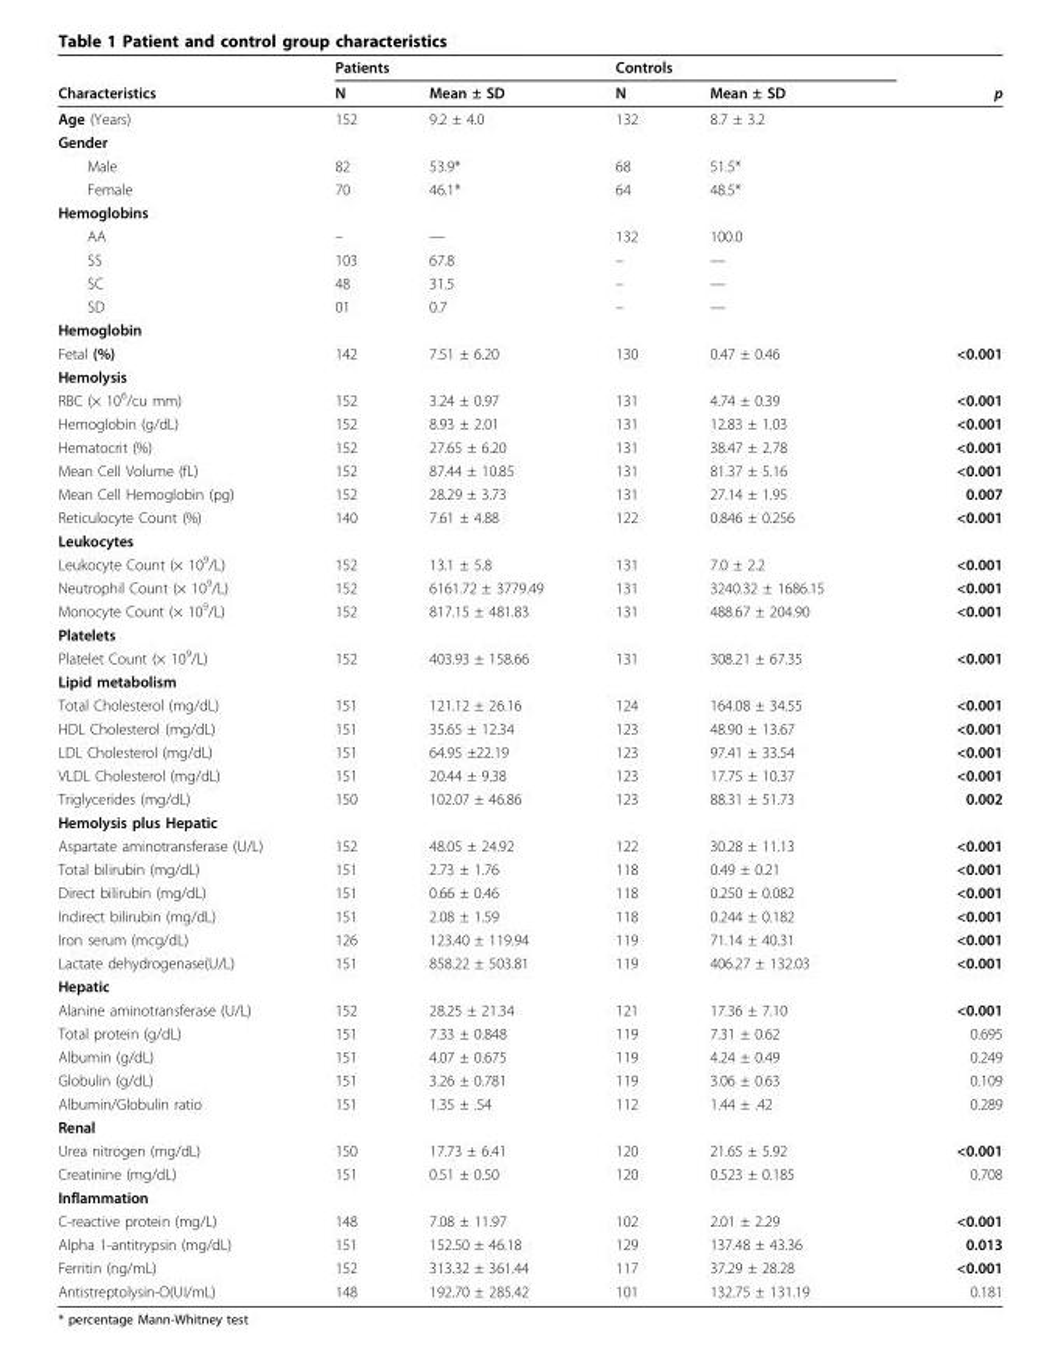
<table><thead><tr><td rowspan="2">Characteristics</td><td colspan="2">Patients</td><td colspan="2">Controls</td><td rowspan="2">p</td></tr><tr><td>N</td><td>Mean ± SD</td><td>N</td><td>Mean ± SD</td></tr></thead><tbody><tr><td>Age (Years)</td><td>152</td><td>9.2 ± 4.0</td><td>132</td><td>8.7 ± 3.2</td><td></td></tr><tr><td colspan="6">Gender</td></tr><tr><td>Male</td><td>82</td><td>53.9*</td><td>68</td><td>51.5*</td><td></td></tr><tr><td>Female</td><td>70</td><td>46.1*</td><td>64</td><td>48.5*</td><td></td></tr><tr><td colspan="6">Hemoglobins</td></tr><tr><td>AA</td><td>–</td><td>—</td><td>132</td><td>100.0</td><td></td></tr><tr><td>SS</td><td>103</td><td>67.8</td><td>–</td><td>—</td><td></td></tr><tr><td>SC</td><td>48</td><td>31.5</td><td>–</td><td>—</td><td></td></tr><tr><td>SD</td><td>01</td><td>0.7</td><td>–</td><td>—</td><td></td></tr><tr><td colspan="6">Hemoglobin</td></tr><tr><td>Fetal (%)</td><td>142</td><td>7.51 ± 6.20</td><td>130</td><td>0.47 ± 0.46</td><td>&lt;0.001</td></tr><tr><td colspan="6">Hemolysis</td></tr><tr><td>RBC (× 10<sup>6</sup>/cu mm)</td><td>152</td><td>3.24 ± 0.97</td><td>131</td><td>4.74 ± 0.39</td><td>&lt;0.001</td></tr><tr><td>Hemoglobin (g/dL)</td><td>152</td><td>8.93 ± 2.01</td><td>131</td><td>12.83 ± 1.03</td><td>&lt;0.001</td></tr><tr><td>Hematocrit (%)</td><td>152</td><td>27.65 ± 6.20</td><td>131</td><td>38.47 ± 2.78</td><td>&lt;0.001</td></tr><tr><td>Mean Cell Volume (fL)</td><td>152</td><td>87.44 ± 10.85</td><td>131</td><td>81.37 ± 5.16</td><td>&lt;0.001</td></tr><tr><td>Mean Cell Hemoglobin (pg)</td><td>152</td><td>28.29 ± 3.73</td><td>131</td><td>27.14 ± 1.95</td><td>0.007</td></tr><tr><td>Reticulocyte Count (%)</td><td>140</td><td>7.61 ± 4.88</td><td>122</td><td>0.846 ± 0.256</td><td>&lt;0.001</td></tr><tr><td colspan="6">Leukocytes</td></tr><tr><td>Leukocyte Count (× 10<sup>9</sup>/L)</td><td>152</td><td>13.1 ± 5.8</td><td>131</td><td>7.0 ± 2.2</td><td>&lt;0.001</td></tr><tr><td>Neutrophil Count (× 10<sup>9</sup>/L)</td><td>152</td><td>6161.72 ± 3779.49</td><td>131</td><td>3240.32 ± 1686.15</td><td>&lt;0.001</td></tr><tr><td>Monocyte Count (× 10<sup>9</sup>/L)</td><td>152</td><td>817.15 ± 481.83</td><td>131</td><td>488.67 ± 204.90</td><td>&lt;0.001</td></tr><tr><td colspan="6">Platelets</td></tr><tr><td>Platelet Count (× 10<sup>9</sup>/L)</td><td>152</td><td>403.93 ± 158.66</td><td>131</td><td>308.21 ± 67.35</td><td>&lt;0.001</td></tr><tr><td colspan="6">Lipid metabolism</td></tr><tr><td>Total Cholesterol (mg/dL)</td><td>151</td><td>121.12 ± 26.16</td><td>124</td><td>164.08 ± 34.55</td><td>&lt;0.001</td></tr><tr><td>HDL Cholesterol (mg/dL)</td><td>151</td><td>35.65 ± 12.34</td><td>123</td><td>48.90 ± 13.67</td><td>&lt;0.001</td></tr><tr><td>LDL Cholesterol (mg/dL)</td><td>151</td><td>64.95 ±22.19</td><td>123</td><td>97.41 ± 33.54</td><td>&lt;0.001</td></tr><tr><td>VLDL Cholesterol (mg/dL)</td><td>151</td><td>20.44 ± 9.38</td><td>123</td><td>17.75 ± 10.37</td><td>&lt;0.001</td></tr><tr><td>Triglycerides (mg/dL)</td><td>150</td><td>102.07 ± 46.86</td><td>123</td><td>88.31 ± 51.73</td><td>0.002</td></tr><tr><td colspan="6">Hemolysis plus Hepatic</td></tr><tr><td>Aspartate aminotransferase (U/L)</td><td>152</td><td>48.05 ± 24.92</td><td>122</td><td>30.28 ± 11.13</td><td>&lt;0.001</td></tr><tr><td>Total bilirubin (mg/dL)</td><td>151</td><td>2.73 ± 1.76</td><td>118</td><td>0.49 ± 0.21</td><td>&lt;0.001</td></tr><tr><td>Direct bilirubin (mg/dL)</td><td>151</td><td>0.66 ± 0.46</td><td>118</td><td>0.250 ± 0.082</td><td>&lt;0.001</td></tr><tr><td>Indirect bilirubin (mg/dL)</td><td>151</td><td>2.08 ± 1.59</td><td>118</td><td>0.244 ± 0.182</td><td>&lt;0.001</td></tr><tr><td>Iron serum (mcg/dL)</td><td>126</td><td>123.40 ± 119.94</td><td>119</td><td>71.14 ± 40.31</td><td>&lt;0.001</td></tr><tr><td>Lactate dehydrogenase(U/L)</td><td>151</td><td>858.22 ± 503.81</td><td>119</td><td>406.27 ± 132.03</td><td>&lt;0.001</td></tr><tr><td colspan="6">Hepatic</td></tr><tr><td>Alanine aminotransferase (U/L)</td><td>152</td><td>28.25 ± 21.34</td><td>121</td><td>17.36 ± 7.10</td><td>&lt;0.001</td></tr><tr><td>Total protein (g/dL)</td><td>151</td><td>7.33 ± 0.848</td><td>119</td><td>7.31 ± 0.62</td><td>0.695</td></tr><tr><td>Albumin (g/dL)</td><td>151</td><td>4.07 ± 0.675</td><td>119</td><td>4.24 ± 0.49</td><td>0.249</td></tr><tr><td>Globulin (g/dL)</td><td>151</td><td>3.26 ± 0.781</td><td>119</td><td>3.06 ± 0.63</td><td>0.109</td></tr><tr><td>Albumin/Globulin ratio</td><td>151</td><td>1.35 ± .54</td><td>112</td><td>1.44 ± .42</td><td>0.289</td></tr><tr><td colspan="6">Renal</td></tr><tr><td>Urea nitrogen (mg/dL)</td><td>150</td><td>17.73 ± 6.41</td><td>120</td><td>21.65 ± 5.92</td><td>&lt;0.001</td></tr><tr><td>Creatinine (mg/dL)</td><td>151</td><td>0.51 ± 0.50</td><td>120</td><td>0.523 ± 0.185</td><td>0.708</td></tr><tr><td colspan="6">Inflammation</td></tr><tr><td>C-reactive protein (mg/L)</td><td>148</td><td>7.08 ± 11.97</td><td>102</td><td>2.01 ± 2.29</td><td>&lt;0.001</td></tr><tr><td>Alpha 1-antitrypsin (mg/dL)</td><td>151</td><td>152.50 ± 46.18</td><td>129</td><td>137.48 ± 43.36</td><td>0.013</td></tr><tr><td>Ferritin (ng/mL)</td><td>152</td><td>313.32 ± 361.44</td><td>117</td><td>37.29 ± 28.28</td><td>&lt;0.001</td></tr><tr><td>Antistreptolysin-O(UI/mL)</td><td>148</td><td>192.70 ± 285.42</td><td>101</td><td>132.75 ± 131.19</td><td>0.181</td></tr></tbody></table>